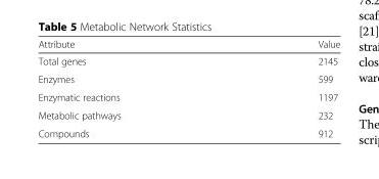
<table><thead><tr><td>Attribute</td><td>Value</td></tr></thead><tbody><tr><td>Total genes</td><td>2145</td></tr><tr><td>Enzymes</td><td>599</td></tr><tr><td>Enzymatic reactions</td><td>1197</td></tr><tr><td>Metabolic pathways</td><td>232</td></tr><tr><td>Compounds</td><td>912</td></tr></tbody></table>